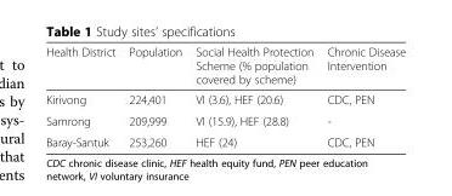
<table><thead><tr><td>Health District</td><td>Population</td><td>Social Health Protection Scheme (% population covered by scheme)</td><td>Chronic Disease Intervention</td></tr></thead><tbody><tr><td>Kirivong</td><td>224,401</td><td>VI (3.6), HEF (20.6)</td><td>CDC, PEN</td></tr><tr><td>Samrong</td><td>209,999</td><td>VI (15.9), HEF (28.8)</td><td>-</td></tr><tr><td>Baray-Santuk</td><td>253,260</td><td>HEF (24)</td><td>CDC, PEN</td></tr></tbody></table>